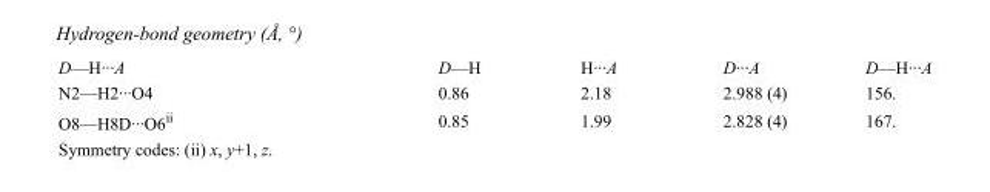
<table><tbody><tr><td>D—H···A</td><td>D—H</td><td>H···A</td><td>D···A</td><td>D—H···A</td></tr><tr><td>N2—H2···O4</td><td>0.86</td><td>2.18</td><td>2.988 (4)</td><td>156.</td></tr><tr><td>O8—H8D···O6<sup>ii</sup></td><td>0.85</td><td>1.99</td><td>2.828 (4)</td><td>167.</td></tr></tbody></table>